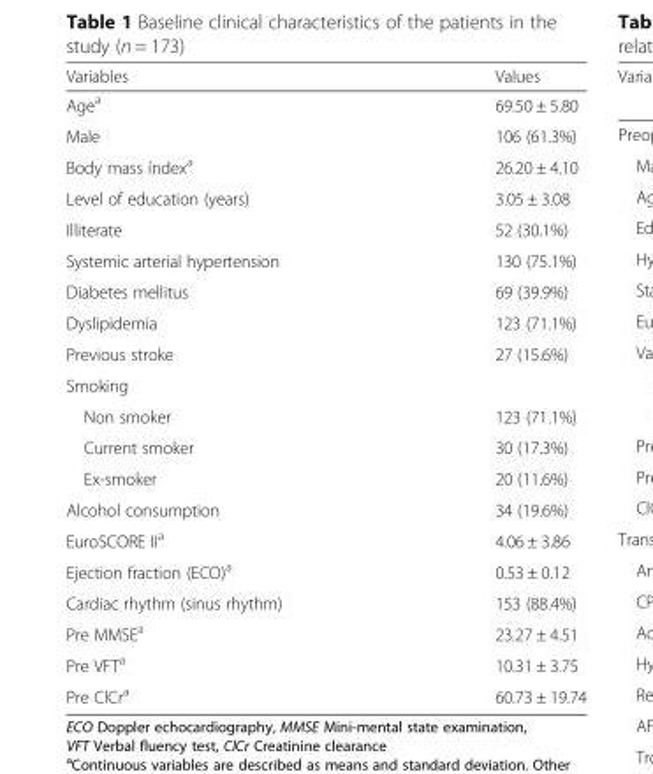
<table><thead><tr><td>Variables</td><td>Values</td></tr></thead><tbody><tr><td>Age<sup>a</sup></td><td>69.50 ± 5.80</td></tr><tr><td>Male</td><td>106 (61.3%)</td></tr><tr><td>Body mass índex<sup>a</sup></td><td>26.20 ± 4.10</td></tr><tr><td>Level of education (years)</td><td>3.05 ± 3.08</td></tr><tr><td>Illiterate</td><td>52 (30.1%)</td></tr><tr><td>Systemic arterial hypertension</td><td>130 (75.1%)</td></tr><tr><td>Diabetes mellitus</td><td>69 (39.9%)</td></tr><tr><td>Dyslipidemia</td><td>123 (71.1%)</td></tr><tr><td>Previous stroke</td><td>27 (15.6%)</td></tr><tr><td colspan="2">Smoking</td></tr><tr><td>Non smoker</td><td>123 (71.1%)</td></tr><tr><td>Current smoker</td><td>30 (17.3%)</td></tr><tr><td>Ex-smoker</td><td>20 (11.6%)</td></tr><tr><td>Alcohol consumption</td><td>34 (19.6%)</td></tr><tr><td>EuroSCORE II<sup>a</sup></td><td>4.06 ± 3.86</td></tr><tr><td>Ejection fraction (ECO)<sup>a</sup></td><td>0.53 ± 0.12</td></tr><tr><td>Cardiac rhythm (sinus rhythm)</td><td>153 (88.4%)</td></tr><tr><td>Pre MMSE<sup>a</sup></td><td>23.27 ± 4.51</td></tr><tr><td>Pre VFT<sup>a</sup></td><td>10.31 ± 3.75</td></tr><tr><td>Pre ClCr<sup>a</sup></td><td>60.73 ± 19.74</td></tr></tbody></table>